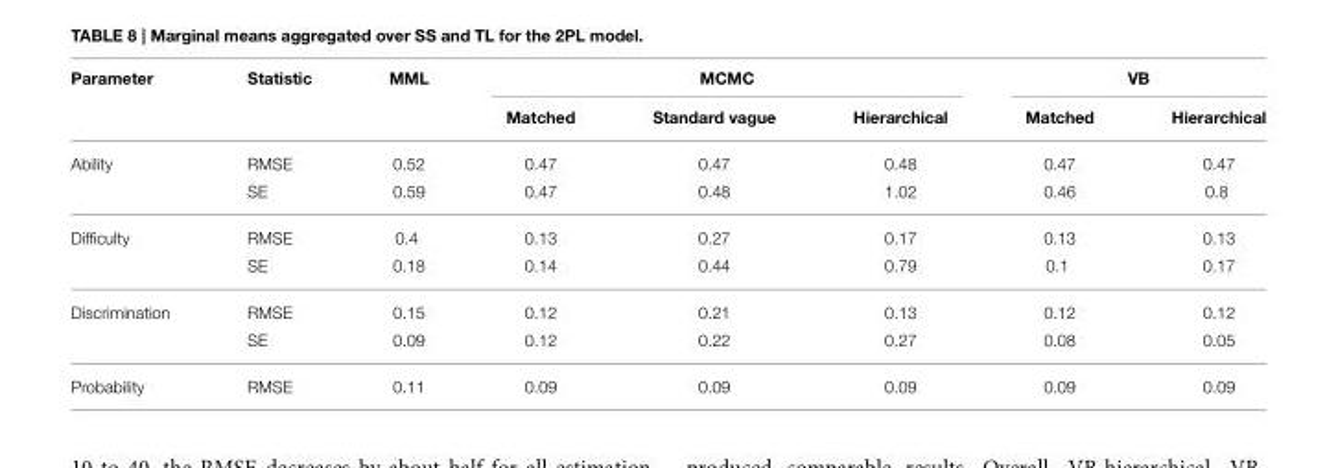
<table><thead><tr><td rowspan="2">Parameter</td><td rowspan="2">Statistic</td><td rowspan="2">MML</td><td colspan="3">MCMC</td><td colspan="2">VB</td></tr><tr><td>Matched</td><td>Standard vague</td><td>Hierarchical</td><td>Matched</td><td>Hierarchical</td></tr></thead><tbody><tr><td rowspan="2">Ability</td><td>RMSE</td><td>0.52</td><td>0.47</td><td>0.47</td><td>0.48</td><td>0.47</td><td>0.47</td></tr><tr><td>SE</td><td>0.59</td><td>0.47</td><td>0.48</td><td>1.02</td><td>0.46</td><td>0.8</td></tr><tr><td rowspan="2">Difficulty</td><td>RMSE</td><td>0.4</td><td>0.13</td><td>0.27</td><td>0.17</td><td>0.13</td><td>0.13</td></tr><tr><td>SE</td><td>0.18</td><td>0.14</td><td>0.44</td><td>0.79</td><td>0.1</td><td>0.17</td></tr><tr><td rowspan="2">Discrimination</td><td>RMSE</td><td>0.15</td><td>0.12</td><td>0.21</td><td>0.13</td><td>0.12</td><td>0.12</td></tr><tr><td>SE</td><td>0.09</td><td>0.12</td><td>0.22</td><td>0.27</td><td>0.08</td><td>0.05</td></tr><tr><td>Probability</td><td>RMSE</td><td>0.11</td><td>0.09</td><td>0.09</td><td>0.09</td><td>0.09</td><td>0.09</td></tr></tbody></table>